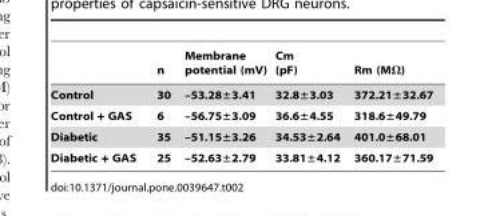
<table><thead><tr><td></td><td>n</td><td>Membrane potential (mV)</td><td>Cm (pF)</td><td>Rm (MΩ)</td></tr></thead><tbody><tr><td>Control</td><td>30</td><td>–53.28±3.41</td><td>32.8±3.03</td><td>372.21±32.67</td></tr><tr><td>Control + GAS</td><td>6</td><td>–56.75±3.09</td><td>36.6±4.55</td><td>318.6±49.79</td></tr><tr><td>Diabetic</td><td>35</td><td>–51.15±3.26</td><td>34.53±2.64</td><td>401.0±68.01</td></tr><tr><td>Diabetic + GAS</td><td>25</td><td>–52.63±2.79</td><td>33.81±4.12</td><td>360.17±71.59</td></tr></tbody></table>